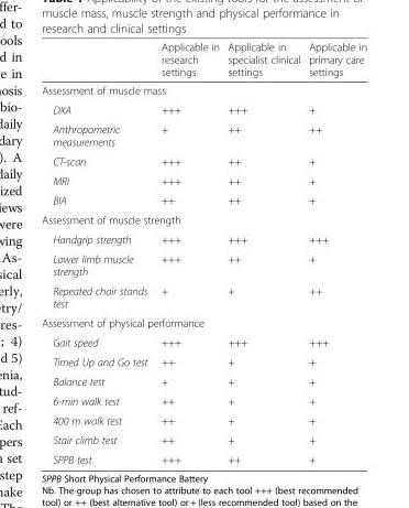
<table><thead><tr><td></td><td>Applicable in research settings</td><td>Applicable in specialist clinical settings</td><td>Applicable in primary care settings</td></tr></thead><tbody><tr><td colspan="4">Assessment of muscle mass</td></tr><tr><td>DXA</td><td>+++</td><td>+++</td><td>+</td></tr><tr><td>Anthropometric measurements</td><td>+</td><td>++</td><td>++</td></tr><tr><td>CT-scan</td><td>+++</td><td>++</td><td>+</td></tr><tr><td>MRI</td><td>+++</td><td>++</td><td>+</td></tr><tr><td>BIA</td><td>++</td><td>++</td><td>+</td></tr><tr><td colspan="4">Assessment of muscle strength</td></tr><tr><td>Handgrip strength</td><td>+++</td><td>+++</td><td>+++</td></tr><tr><td>Lower limb muscle strength</td><td>+++</td><td>++</td><td>+</td></tr><tr><td>Repeated chair stands test</td><td>+</td><td>+</td><td>++</td></tr><tr><td colspan="4">Assessment of physical performance</td></tr><tr><td>Gait speed</td><td>+++</td><td>+++</td><td>+++</td></tr><tr><td>Timed Up and Go test</td><td>++</td><td>+</td><td>+</td></tr><tr><td>Balance test</td><td>+</td><td>+</td><td>+</td></tr><tr><td>6-min walk test</td><td>++</td><td>+</td><td>+</td></tr><tr><td>400 m walk test</td><td>++</td><td>+</td><td>+</td></tr><tr><td>Stair climb test</td><td>++</td><td>+</td><td>+</td></tr><tr><td>SPPB test</td><td>+++</td><td>++</td><td>+</td></tr></tbody></table>